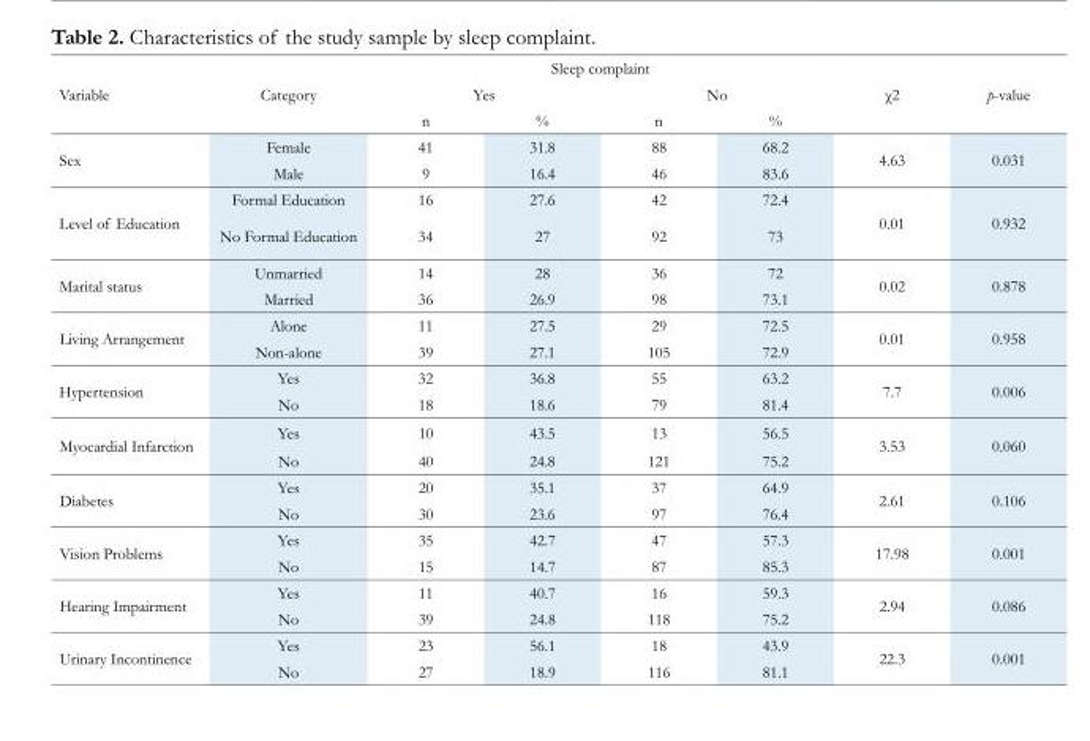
<table><thead><tr><td rowspan="3">Variable</td><td rowspan="3">Category</td><td colspan="4">Sleep complaint</td><td rowspan="3">χ2</td><td rowspan="3">p-value</td></tr><tr><td colspan="2">Yes</td><td colspan="2">No</td></tr><tr><td>n</td><td>%</td><td>n</td><td>%</td></tr></thead><tbody><tr><td rowspan="2">Sex</td><td>Female</td><td>41</td><td>31.8</td><td>88</td><td>68.2</td><td rowspan="2">4.63</td><td rowspan="2">0.031</td></tr><tr><td>Male</td><td>9</td><td>16.4</td><td>46</td><td>83.6</td></tr><tr><td rowspan="2">Level of Education</td><td>Formal Education</td><td>16</td><td>27.6</td><td>42</td><td>72.4</td><td rowspan="2">0.01</td><td rowspan="2">0.932</td></tr><tr><td>No Formal Education</td><td>34</td><td>27</td><td>92</td><td>73</td></tr><tr><td rowspan="2">Marital status</td><td>Unmarried</td><td>14</td><td>28</td><td>36</td><td>72</td><td rowspan="2">0.02</td><td rowspan="2">0.878</td></tr><tr><td>Married</td><td>36</td><td>26.9</td><td>98</td><td>73.1</td></tr><tr><td rowspan="2">Living Arrangement</td><td>Alone</td><td>11</td><td>27.5</td><td>29</td><td>72.5</td><td rowspan="2">0.01</td><td rowspan="2">0.958</td></tr><tr><td>Non-alone</td><td>39</td><td>27.1</td><td>105</td><td>72.9</td></tr><tr><td rowspan="2">Hypertension</td><td>Yes</td><td>32</td><td>36.8</td><td>55</td><td>63.2</td><td rowspan="2">7.7</td><td rowspan="2">0.006</td></tr><tr><td>No</td><td>18</td><td>18.6</td><td>79</td><td>81.4</td></tr><tr><td rowspan="2">Myocardial Infarction</td><td>Yes</td><td>10</td><td>43.5</td><td>13</td><td>56.5</td><td rowspan="2">3.53</td><td rowspan="2">0.060</td></tr><tr><td>No</td><td>40</td><td>24.8</td><td>121</td><td>75.2</td></tr><tr><td rowspan="2">Diabetes</td><td>Yes</td><td>20</td><td>35.1</td><td>37</td><td>64.9</td><td rowspan="2">2.61</td><td rowspan="2">0.106</td></tr><tr><td>No</td><td>30</td><td>23.6</td><td>97</td><td>76.4</td></tr><tr><td rowspan="2">Vision Problems</td><td>Yes</td><td>35</td><td>42.7</td><td>47</td><td>57.3</td><td rowspan="2">17.98</td><td rowspan="2">0.001</td></tr><tr><td>No</td><td>15</td><td>14.7</td><td>87</td><td>85.3</td></tr><tr><td rowspan="2">Hearing Impairment</td><td>Yes</td><td>11</td><td>40.7</td><td>16</td><td>59.3</td><td rowspan="2">2.94</td><td rowspan="2">0.086</td></tr><tr><td>No</td><td>39</td><td>24.8</td><td>118</td><td>75.2</td></tr><tr><td rowspan="2">Urinary Incontinence</td><td>Yes</td><td>23</td><td>56.1</td><td>18</td><td>43.9</td><td rowspan="2">22.3</td><td rowspan="2">0.001</td></tr><tr><td>No</td><td>27</td><td>18.9</td><td>116</td><td>81.1</td></tr></tbody></table>